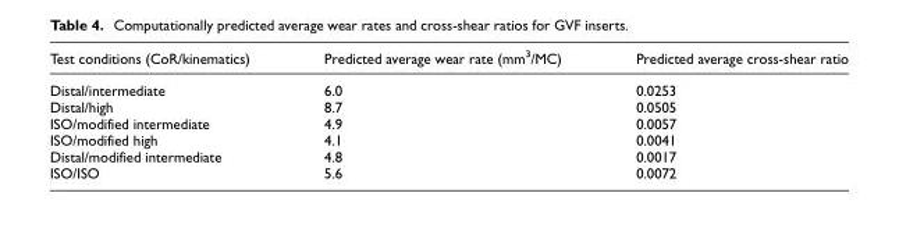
<table><thead><tr><td>Test conditions (CoR/kinematics)</td><td>Predicted average wear rate (mm<sup>3</sup>/MC)</td><td>Predicted average cross-shear ratio</td></tr></thead><tbody><tr><td>Distal/intermediate</td><td>6.0</td><td>0.0253</td></tr><tr><td>Distal/high</td><td>8.7</td><td>0.0505</td></tr><tr><td>ISO/modified intermediate</td><td>4.9</td><td>0.0057</td></tr><tr><td>ISO/modified high</td><td>4.1</td><td>0.0041</td></tr><tr><td>Distal/modified intermediate</td><td>4.8</td><td>0.0017</td></tr><tr><td>ISO/ISO</td><td>5.6</td><td>0.0072</td></tr></tbody></table>